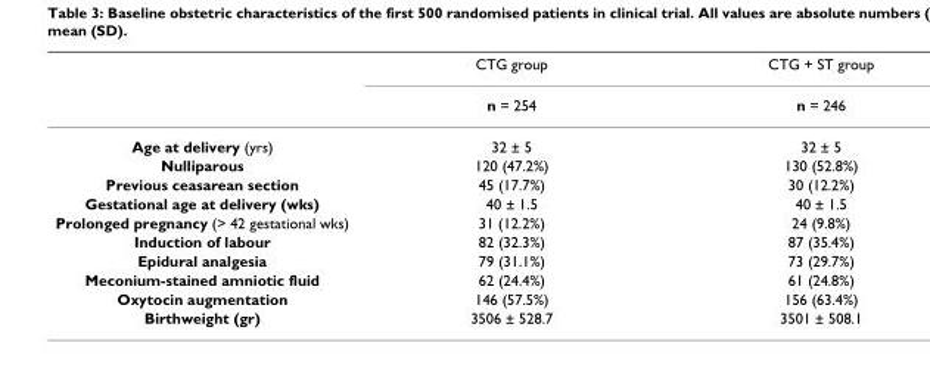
<table><thead><tr><td rowspan="2"></td><td rowspan="2">CTG group n = 254</td><td rowspan="2">CTG + ST group n = 246</td></tr><tr></tr></thead><tbody><tr><td>Age at delivery (yrs)</td><td>32 ± 5</td><td>32 ± 5</td></tr><tr><td>Nulliparous</td><td>120 (47.2%)</td><td>130 (52.8%)</td></tr><tr><td>Previous ceasarean section</td><td>45 (17.7%)</td><td>30 (12.2%)</td></tr><tr><td>Gestational age at delivery (wks)</td><td>40 ± 1.5</td><td>40 ± 1.5</td></tr><tr><td>Prolonged pregnancy (&gt; 42 gestational wks)</td><td>31 (12.2%)</td><td>24 (9.8%)</td></tr><tr><td>Induction of labour</td><td>82 (32.3%)</td><td>87 (35.4%)</td></tr><tr><td>Epidural analgesia</td><td>79 (31.1%)</td><td>73 (29.7%)</td></tr><tr><td>Meconium-stained amniotic fluid</td><td>62 (24.4%)</td><td>61 (24.8%)</td></tr><tr><td>Oxytocin augmentation</td><td>146 (57.5%)</td><td>156 (63.4%)</td></tr><tr><td>Birthweight (gr)</td><td>3506 ± 528.7</td><td>3501 ± 508.1</td></tr></tbody></table>